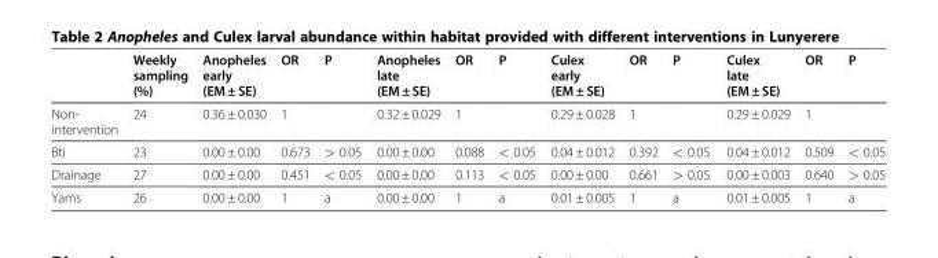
<table><thead><tr><td></td><td>Weekly sampling (%)</td><td>Anopheles early (EM ± SE)</td><td>OR</td><td>P</td><td>Anopheles late (EM ± SE)</td><td>OR</td><td>P</td><td>Culex early (EM ± SE)</td><td>OR</td><td>P</td><td>Culex late (EM ± SE)</td><td>OR</td><td>P</td></tr></thead><tbody><tr><td>Non- intervention</td><td>24</td><td>0.36 ± 0.030</td><td>1</td><td></td><td>0.32 ± 0.029</td><td>1</td><td></td><td>0.29 ± 0.028</td><td>1</td><td></td><td>0.29 ± 0.029</td><td>1</td><td></td></tr><tr><td>Bti</td><td>23</td><td>0.00 ± 0.00</td><td>0.673</td><td>&gt; 0.05</td><td>0.00 ± 0.00</td><td>0.088</td><td>&lt; 0.05</td><td>0.04 ± 0.012</td><td>0.392</td><td>&lt; 0.05</td><td>0.04 ± 0.012</td><td>0.509</td><td>&lt; 0.05</td></tr><tr><td>Drainage</td><td>27</td><td>0.00 ± 0.00</td><td>0.451</td><td>&lt; 0.05</td><td>0.00 ± 0.00</td><td>0.113</td><td>&lt; 0.05</td><td>0.00 ± 0.00</td><td>0.661</td><td>&gt; 0.05</td><td>0.00 ± 0.003</td><td>0.640</td><td>&gt; 0.05</td></tr><tr><td>Yams</td><td>26</td><td>0.00 ± 0.00</td><td>1</td><td>a</td><td>0.00 ± 0.00</td><td>1</td><td>a</td><td>0.01 ± 0.005</td><td>1</td><td>a</td><td>0.01 ± 0.005</td><td>1</td><td>a</td></tr></tbody></table>